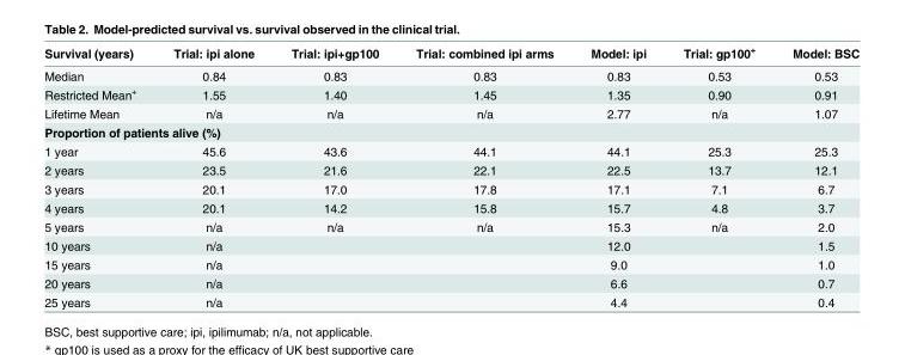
<table><thead><tr><td>Survival (years)</td><td>Trial: ipi alone</td><td>Trial: ipi+gp100</td><td>Trial: combined ipi arms</td><td>Model: ipi</td><td>Trial: gp100<sup>+</sup></td><td>Model: BSC</td></tr></thead><tbody><tr><td>Median</td><td>0.84</td><td>0.83</td><td>0.83</td><td>0.83</td><td>0.53</td><td>0.53</td></tr><tr><td>Restricted Mean<sup>+</sup></td><td>1.55</td><td>1.40</td><td>1.45</td><td>1.35</td><td>0.90</td><td>0.91</td></tr><tr><td>Lifetime Mean</td><td>n/a</td><td>n/a</td><td>n/a</td><td>2.77</td><td>n/a</td><td>1.07</td></tr><tr><td colspan="7">Proportion of patients alive (%)</td></tr><tr><td>1 year</td><td>45.6</td><td>43.6</td><td>44.1</td><td>44.1</td><td>25.3</td><td>25.3</td></tr><tr><td>2 years</td><td>23.5</td><td>21.6</td><td>22.1</td><td>22.5</td><td>13.7</td><td>12.1</td></tr><tr><td>3 years</td><td>20.1</td><td>17.0</td><td>17.8</td><td>17.1</td><td>7.1</td><td>6.7</td></tr><tr><td>4 years</td><td>20.1</td><td>14.2</td><td>15.8</td><td>15.7</td><td>4.8</td><td>3.7</td></tr><tr><td>5 years</td><td>n/a</td><td>n/a</td><td>n/a</td><td>15.3</td><td>n/a</td><td>2.0</td></tr><tr><td>10 years</td><td>n/a</td><td></td><td></td><td>12.0</td><td></td><td>1.5</td></tr><tr><td>15 years</td><td>n/a</td><td></td><td></td><td>9.0</td><td></td><td>1.0</td></tr><tr><td>20 years</td><td>n/a</td><td></td><td></td><td>6.6</td><td></td><td>0.7</td></tr><tr><td>25 years</td><td>n/a</td><td></td><td></td><td>4.4</td><td></td><td>0.4</td></tr></tbody></table>